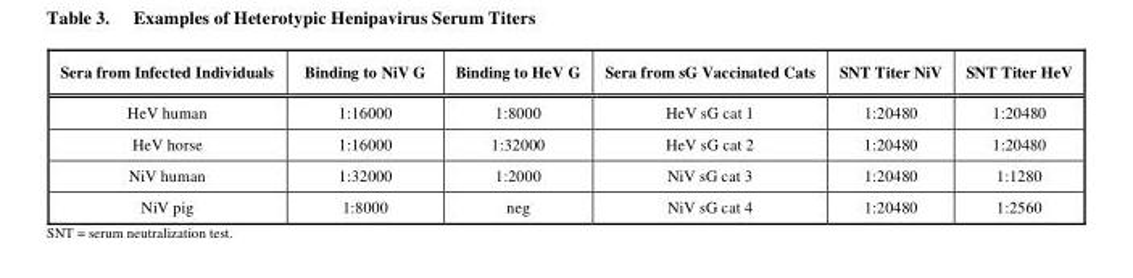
<table><thead><tr><td>Sera from Infected Individuals</td><td>Binding to NiV G</td><td>Binding to HeV G</td><td>Sera from sG Vaccinated Cats</td><td>SNT Titer NiV</td><td>SNT Titer HeV</td></tr></thead><tbody><tr><td>HeV human</td><td>1:16000</td><td>1:8000</td><td>HeV sG cat 1</td><td>1:20480</td><td>1:20480</td></tr><tr><td>HeV horse</td><td>1:16000</td><td>1:32000</td><td>HeV sG cat 2</td><td>1:20480</td><td>1:20480</td></tr><tr><td>NiV human</td><td>1:32000</td><td>1:2000</td><td>NiV sG cat 3</td><td>1:20480</td><td>1:1280</td></tr><tr><td>NiV pig</td><td>1:8000</td><td>neg</td><td>NiV sG cat 4</td><td>1:20480</td><td>1:2560</td></tr></tbody></table>